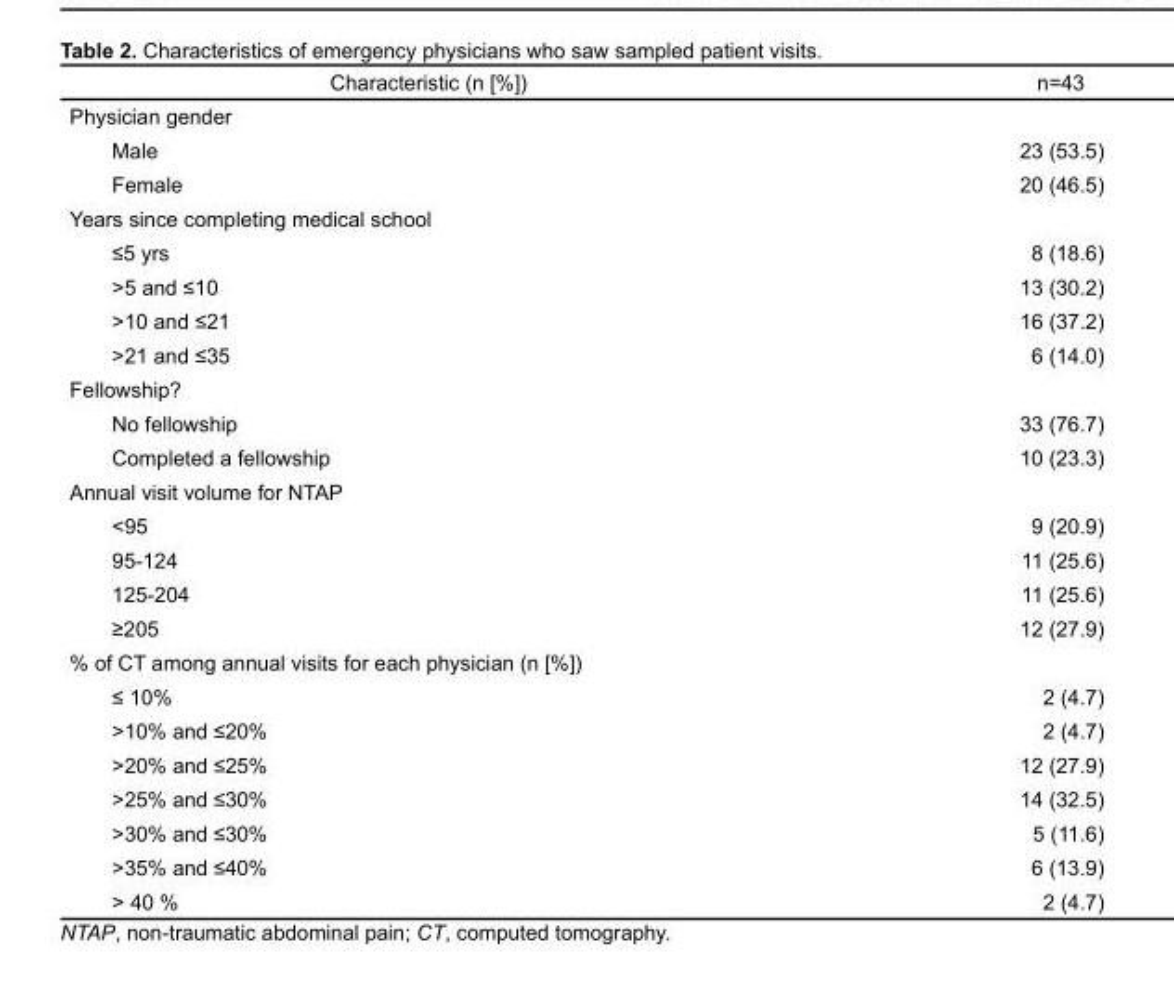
<table><thead><tr><td>Characteristic (n [%])</td><td>n=43</td></tr></thead><tbody><tr><td colspan="2">Physician gender</td></tr><tr><td>Male</td><td>23 (53.5)</td></tr><tr><td>Female</td><td>20 (46.5)</td></tr><tr><td colspan="2">Years since completing medical school</td></tr><tr><td>≤5 yrs</td><td>8 (18.6)</td></tr><tr><td>&gt;5 and ≤10</td><td>13 (30.2)</td></tr><tr><td>&gt;10 and ≤21</td><td>16 (37.2)</td></tr><tr><td>&gt;21 and ≤35</td><td>6 (14.0)</td></tr><tr><td colspan="2">Fellowship?</td></tr><tr><td>No fellowship</td><td>33 (76.7)</td></tr><tr><td>Completed a fellowship</td><td>10 (23.3)</td></tr><tr><td colspan="2">Annual visit volume for NTAP</td></tr><tr><td>&lt;95</td><td>9 (20.9)</td></tr><tr><td>95-124</td><td>11 (25.6)</td></tr><tr><td>125-204</td><td>11 (25.6)</td></tr><tr><td>≥205</td><td>12 (27.9)</td></tr><tr><td colspan="2">% of CT among annual visits for each physician (n [%])</td></tr><tr><td>≤ 10%</td><td>2 (4.7)</td></tr><tr><td>&gt;10% and ≤20%</td><td>2 (4.7)</td></tr><tr><td>&gt;20% and ≤25%</td><td>12 (27.9)</td></tr><tr><td>&gt;25% and ≤30%</td><td>14 (32.5)</td></tr><tr><td>&gt;30% and ≤30%</td><td>5 (11.6)</td></tr><tr><td>&gt;35% and ≤40%</td><td>6 (13.9)</td></tr><tr><td>&gt; 40 %</td><td>2 (4.7)</td></tr></tbody></table>